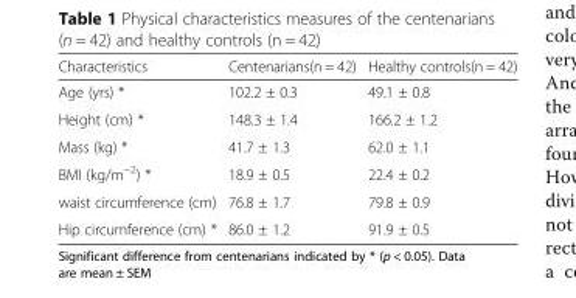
<table><thead><tr><td>Characteristics</td><td>Centenarians(n = 42)</td><td>Healthy controls(n = 42)</td></tr></thead><tbody><tr><td>Age (yrs) *</td><td>102.2 ± 0.3</td><td>49.1 ± 0.8</td></tr><tr><td>Height (cm) *</td><td>148.3 ± 1.4</td><td>166.2 ± 1.2</td></tr><tr><td>Mass (kg) *</td><td>41.7 ± 1.3</td><td>62.0 ± 1.1</td></tr><tr><td>BMI (kg/m<sup>−2</sup>) *</td><td>18.9 ± 0.5</td><td>22.4 ± 0.2</td></tr><tr><td>waist circumference (cm)</td><td>76.8 ± 1.7</td><td>79.8 ± 0.9</td></tr><tr><td>Hip circumference (cm) *</td><td>86.0 ± 1.2</td><td>91.9 ± 0.5</td></tr></tbody></table>